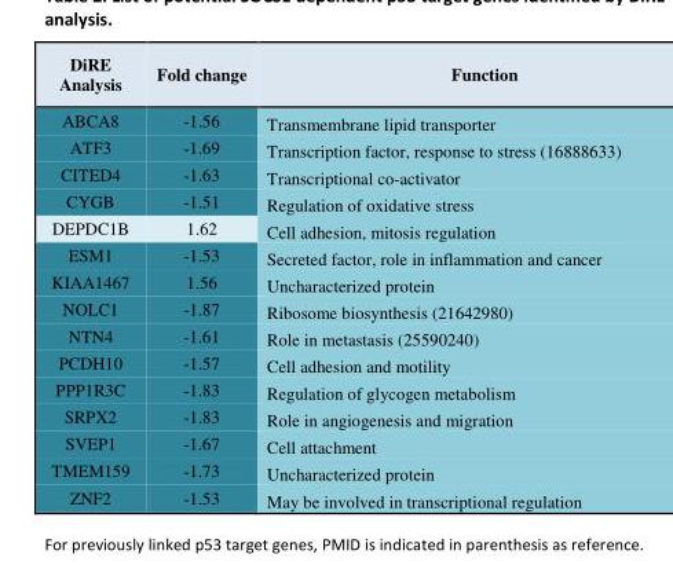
<table><thead><tr><td>DiRE Analysis</td><td>Fold change</td><td>Function</td></tr></thead><tbody><tr><td>ABCA8</td><td>-1.56</td><td>Transmembrane lipid transporter</td></tr><tr><td>ATF3</td><td>-1.69</td><td>Transcription factor, response to stress (16888633)</td></tr><tr><td>CITED4</td><td>-1.63</td><td>Transcriptional co-activator</td></tr><tr><td>CYGB</td><td>-1.51</td><td>Regulation of oxidative stress</td></tr><tr><td>DEPDC1B</td><td>1.62</td><td>Cell adhesion, mitosis regulation</td></tr><tr><td>ESM1</td><td>-1.53</td><td>Secreted factor, role in inflammation and cancer</td></tr><tr><td>KIAA1467</td><td>1.56</td><td>Uncharacterized protein</td></tr><tr><td>NOLC1</td><td>-1.87</td><td>Ribosome biosynthesis (21642980)</td></tr><tr><td>NTN4</td><td>-1.61</td><td>Role in metastasis (25590240)</td></tr><tr><td>PCDH10</td><td>-1.57</td><td>Cell adhesion and motility</td></tr><tr><td>PPP1R3C</td><td>-1.83</td><td>Regulation of glycogen metabolism</td></tr><tr><td>SRPX2</td><td>-1.83</td><td>Role in angiogenesis and migration</td></tr><tr><td>SVEP1</td><td>-1.67</td><td>Cell attachment</td></tr><tr><td>TMEM159</td><td>-1.73</td><td>Uncharacterized protein</td></tr><tr><td>ZNF2</td><td>-1.53</td><td>May be involved in transcriptional regulation</td></tr></tbody></table>